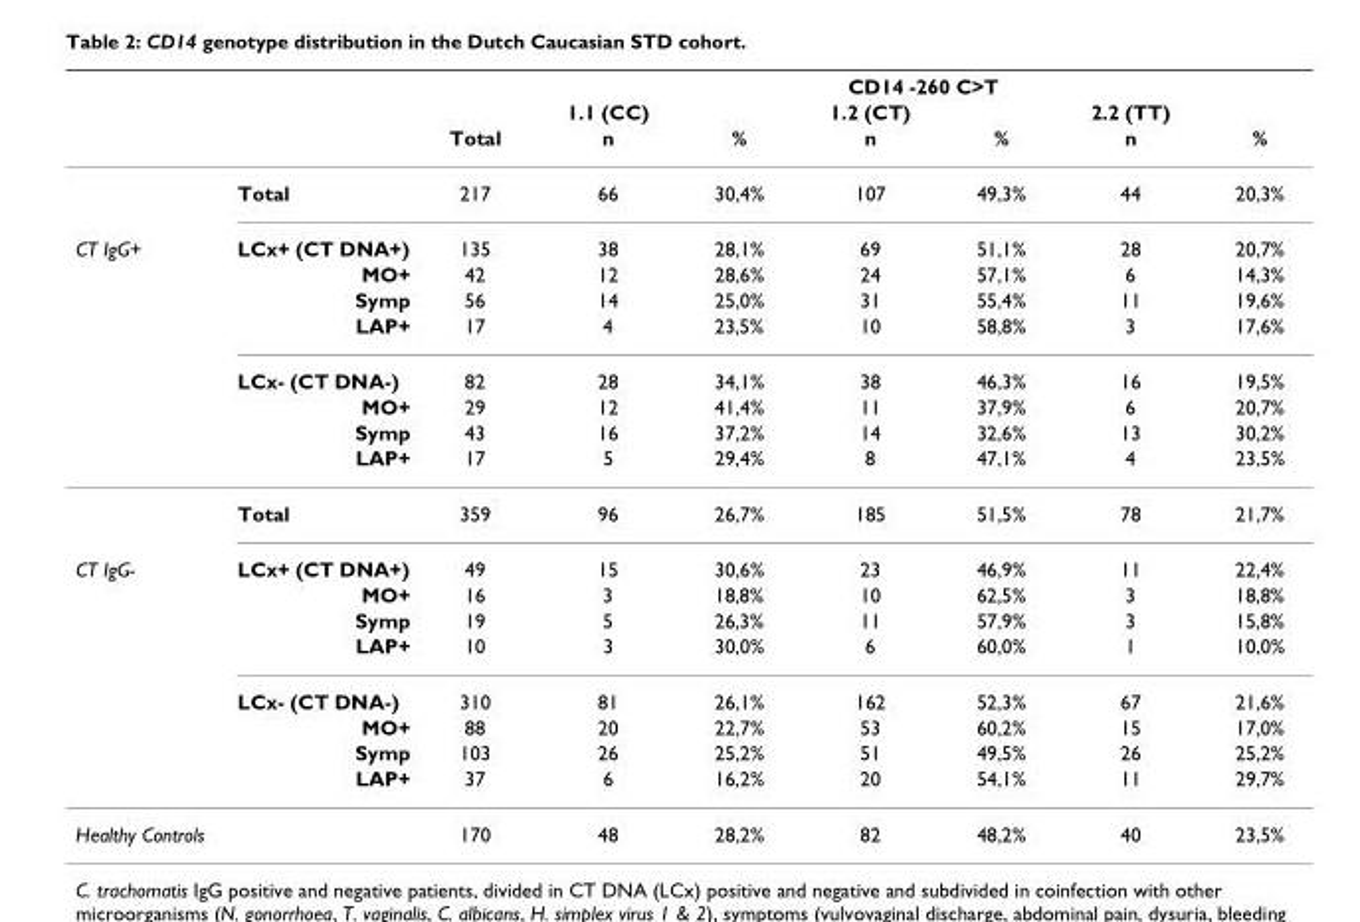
<table><thead><tr><td rowspan="3"></td><td rowspan="3"></td><td rowspan="3">Total</td><td rowspan="3">1.1 (CC) n</td><td rowspan="3">%</td><td colspan="2">CD14 -260 C&gt;T</td><td rowspan="3">2.2 (TT) n</td><td rowspan="3">%</td></tr><tr><td rowspan="2">1.2 (CT) n</td><td rowspan="2">%</td></tr><tr></tr></thead><tbody><tr><td></td><td>Total</td><td>217</td><td>66</td><td>30,4%</td><td>107</td><td>49,3%</td><td>44</td><td>20,3%</td></tr><tr><td rowspan="9">CT IgG+</td><td>LCx+ (CT DNA+)</td><td>135</td><td>38</td><td>28,1%</td><td>69</td><td>51,1%</td><td>28</td><td>20,7%</td></tr><tr><td>MO+</td><td>42</td><td>12</td><td>28,6%</td><td>24</td><td>57,1%</td><td>6</td><td>14,3%</td></tr><tr><td>Symp</td><td>56</td><td>14</td><td>25,0%</td><td>31</td><td>55,4%</td><td>11</td><td>19,6%</td></tr><tr><td>LAP+</td><td>17</td><td>4</td><td>23,5%</td><td>10</td><td>58,8%</td><td>3</td><td>17,6%</td></tr><tr><td>LCx- (CT DNA-)</td><td>82</td><td>28</td><td>34,1%</td><td>38</td><td>46,3%</td><td>16</td><td>19,5%</td></tr><tr><td>MO+</td><td>29</td><td>12</td><td>41,4%</td><td>11</td><td>37,9%</td><td>6</td><td>20,7%</td></tr><tr><td>Symp</td><td>43</td><td>16</td><td>37,2%</td><td>14</td><td>32,6%</td><td>13</td><td>30,2%</td></tr><tr><td>LAP+</td><td>17</td><td>5</td><td>29,4%</td><td>8</td><td>47,1%</td><td>4</td><td>23,5%</td></tr><tr><td>Total</td><td>359</td><td>96</td><td>26,7%</td><td>185</td><td>51,5%</td><td>78</td><td>21,7%</td></tr><tr><td rowspan="8">CT IgG-</td><td>LCx+ (CT DNA+)</td><td>49</td><td>15</td><td>30,6%</td><td>23</td><td>46,9%</td><td>11</td><td>22,4%</td></tr><tr><td>MO+</td><td>16</td><td>3</td><td>18,8%</td><td>10</td><td>62,5%</td><td>3</td><td>18,8%</td></tr><tr><td>Symp</td><td>19</td><td>5</td><td>26,3%</td><td>11</td><td>57,9%</td><td>3</td><td>15,8%</td></tr><tr><td>LAP+</td><td>10</td><td>3</td><td>30,0%</td><td>6</td><td>60,0%</td><td>1</td><td>10,0%</td></tr><tr><td>LCx- (CT DNA-)</td><td>310</td><td>81</td><td>26,1%</td><td>162</td><td>52,3%</td><td>67</td><td>21,6%</td></tr><tr><td>MO+</td><td>88</td><td>20</td><td>22,7%</td><td>53</td><td>60,2%</td><td>15</td><td>17,0%</td></tr><tr><td>Symp</td><td>103</td><td>26</td><td>25,2%</td><td>51</td><td>49,5%</td><td>26</td><td>25,2%</td></tr><tr><td>LAP+</td><td>37</td><td>6</td><td>16,2%</td><td>20</td><td>54,1%</td><td>11</td><td>29,7%</td></tr><tr><td>Healthy Controls</td><td></td><td>170</td><td>48</td><td>28,2%</td><td>82</td><td>48,2%</td><td>40</td><td>23,5%</td></tr></tbody></table>